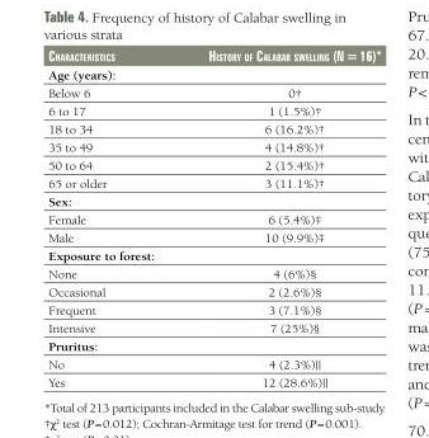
<table><thead><tr><td>characTerisTics</td><td>hisTory of calabar swelliNg (N = 16)*</td></tr></thead><tbody><tr><td colspan="2">Age (years):</td></tr><tr><td>Below 6</td><td>0†</td></tr><tr><td>6 to 17</td><td>1 (1.5%)†</td></tr><tr><td>18 to 34</td><td>6 (16.2%)†</td></tr><tr><td>35 to 49</td><td>4 (14.8%)†</td></tr><tr><td>50 to 64</td><td>2 (15.4%)†</td></tr><tr><td>65 or older</td><td>3 (11.1%)†</td></tr><tr><td colspan="2">Sex:</td></tr><tr><td>Female</td><td>6 (5.4%)‡</td></tr><tr><td>Male</td><td>10 (9.9%)‡</td></tr><tr><td colspan="2">Exposure to forest:</td></tr><tr><td>None</td><td>4 (6%)§</td></tr><tr><td>Occasional</td><td>2 (2.6%)§</td></tr><tr><td>Frequent</td><td>3 (7.1%)§</td></tr><tr><td>Intensive</td><td>7 (25%)§</td></tr><tr><td colspan="2">Pruritus:</td></tr><tr><td>No</td><td>4 (2.3%)||</td></tr><tr><td>Yes</td><td>12 (28.6%)||</td></tr></tbody></table>